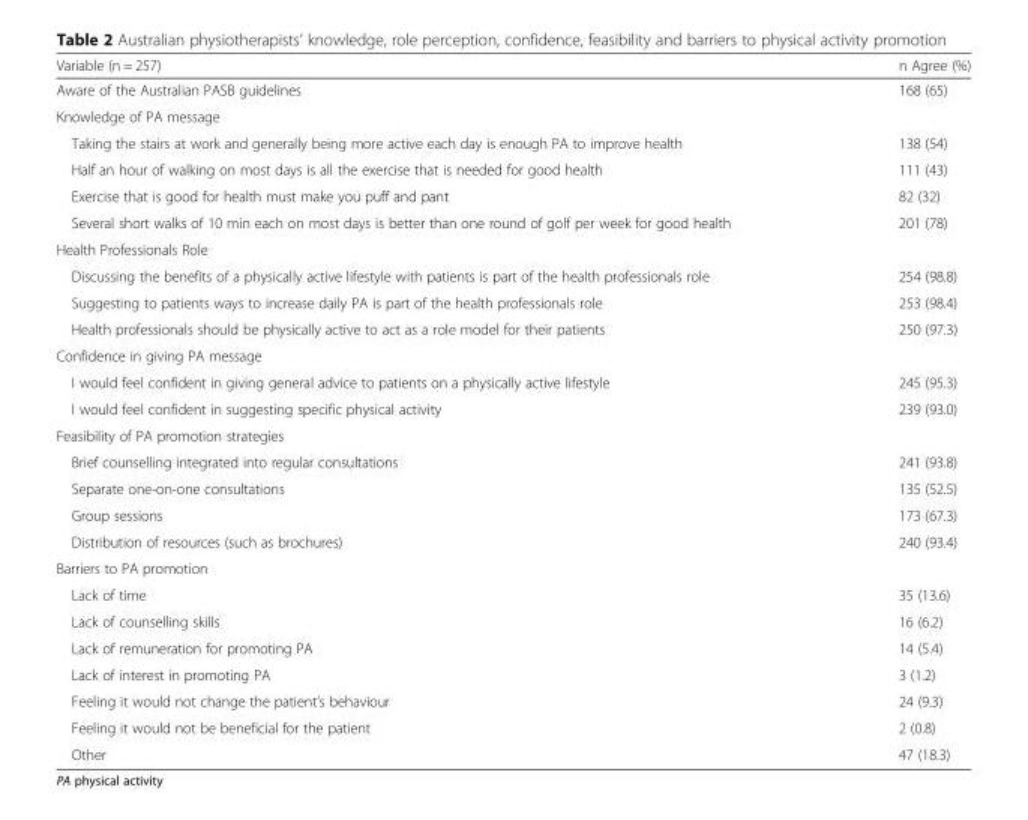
<table><thead><tr><td>Variable (n = 257)</td><td>n Agree (%)</td></tr></thead><tbody><tr><td>Aware of the Australian PASB guidelines</td><td>168 (65)</td></tr><tr><td colspan="2">Knowledge of PA message</td></tr><tr><td>Taking the stairs at work and generally being more active each day is enough PA to improve health</td><td>138 (54)</td></tr><tr><td>Half an hour of walking on most days is all the exercise that is needed for good health</td><td>111 (43)</td></tr><tr><td>Exercise that is good for health must make you puff and pant</td><td>82 (32)</td></tr><tr><td>Several short walks of 10 min each on most days is better than one round of golf per week for good health</td><td>201 (78)</td></tr><tr><td colspan="2">Health Professionals Role</td></tr><tr><td>Discussing the benefits of a physically active lifestyle with patients is part of the health professionals role</td><td>254 (98.8)</td></tr><tr><td>Suggesting to patients ways to increase daily PA is part of the health professionals role</td><td>253 (98.4)</td></tr><tr><td>Health professionals should be physically active to act as a role model for their patients</td><td>250 (97.3)</td></tr><tr><td colspan="2">Confidence in giving PA message</td></tr><tr><td>I would feel confident in giving general advice to patients on a physically active lifestyle</td><td>245 (95.3)</td></tr><tr><td>I would feel confident in suggesting specific physical activity</td><td>239 (93.0)</td></tr><tr><td colspan="2">Feasibility of PA promotion strategies</td></tr><tr><td>Brief counselling integrated into regular consultations</td><td>241 (93.8)</td></tr><tr><td>Separate one-on-one consultations</td><td>135 (52.5)</td></tr><tr><td>Group sessions</td><td>173 (67.3)</td></tr><tr><td>Distribution of resources (such as brochures)</td><td>240 (93.4)</td></tr><tr><td colspan="2">Barriers to PA promotion</td></tr><tr><td>Lack of time</td><td>35 (13.6)</td></tr><tr><td>Lack of counselling skills</td><td>16 (6.2)</td></tr><tr><td>Lack of remuneration for promoting PA</td><td>14 (5.4)</td></tr><tr><td>Lack of interest in promoting PA</td><td>3 (1.2)</td></tr><tr><td>Feeling it would not change the patient’s behaviour</td><td>24 (9.3)</td></tr><tr><td>Feeling it would not be beneficial for the patient</td><td>2 (0.8)</td></tr><tr><td>Other</td><td>47 (18.3)</td></tr></tbody></table>